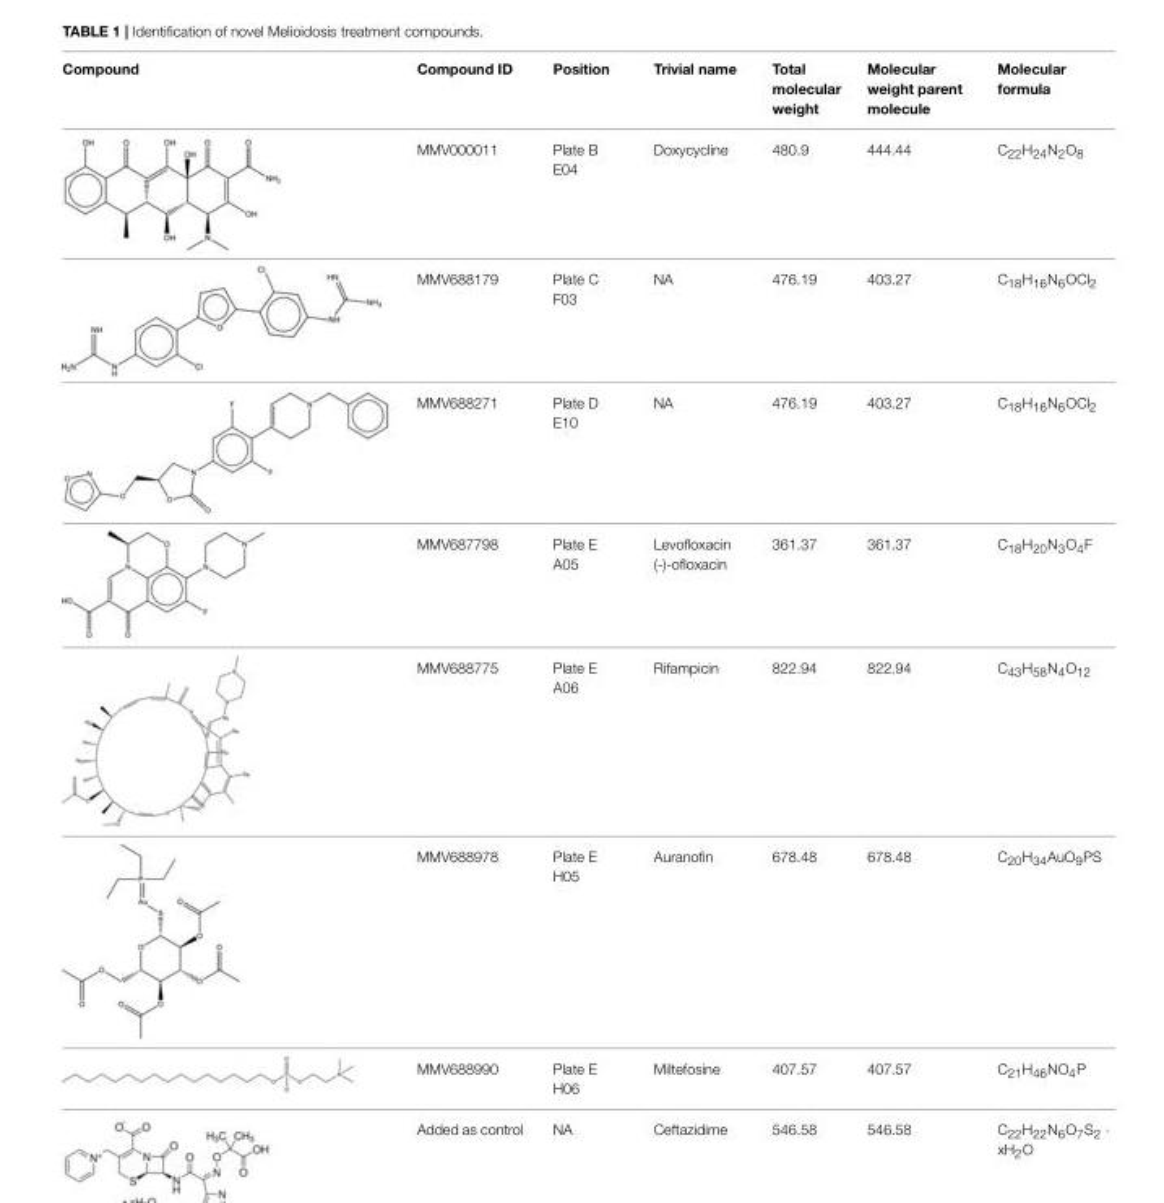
<table><thead><tr><td>Compound</td><td>Compound ID</td><td>Position</td><td>Trivial name</td><td>Total molecular weight</td><td>Molecular weight parent molecule</td><td>Molecular formula</td></tr></thead><tbody><tr><td></td><td>MMV000011</td><td>Plate B E04</td><td>Doxycycline</td><td>480.9</td><td>444.44</td><td>C<sub>22</sub>H<sub>24</sub>N<sub>2</sub>O<sub>8</sub></td></tr><tr><td></td><td>MMV688179</td><td>Plate C F03</td><td>NA</td><td>476.19</td><td>403.27</td><td>C<sub>18</sub>H<sub>16</sub>N<sub>6</sub>OCl<sub>2</sub></td></tr><tr><td></td><td>MMV688271</td><td>Plate D E10</td><td>NA</td><td>476.19</td><td>403.27</td><td>C<sub>18</sub>H<sub>16</sub>N<sub>6</sub>OCl<sub>2</sub></td></tr><tr><td></td><td>MMV687798</td><td>Plate E A05</td><td>Levofloxacin (-)-ofloxacin</td><td>361.37</td><td>361.37</td><td>C<sub>18</sub>H<sub>20</sub>N<sub>3</sub>O<sub>4</sub>F</td></tr><tr><td></td><td>MMV688775</td><td>Plate E A06</td><td>Rifampicin</td><td>822.94</td><td>822.94</td><td>C<sub>43</sub>H<sub>58</sub>N<sub>4</sub>O<sub>12</sub></td></tr><tr><td></td><td>MMV688978</td><td>Plate E H05</td><td>Auranofin</td><td>678.48</td><td>678.48</td><td>C<sub>20</sub>H<sub>34</sub>AuO<sub>9</sub>PS</td></tr><tr><td></td><td>MMV688990</td><td>Plate E H06</td><td>Miltefosine</td><td>407.57</td><td>407.57</td><td>C<sub>21</sub>H<sub>46</sub>NO<sub>4</sub>P</td></tr><tr><td></td><td>Added as control</td><td>NA</td><td>Ceftazidime</td><td>546.58</td><td>546.58</td><td>C22H22N6O7S2</td></tr></tbody></table>